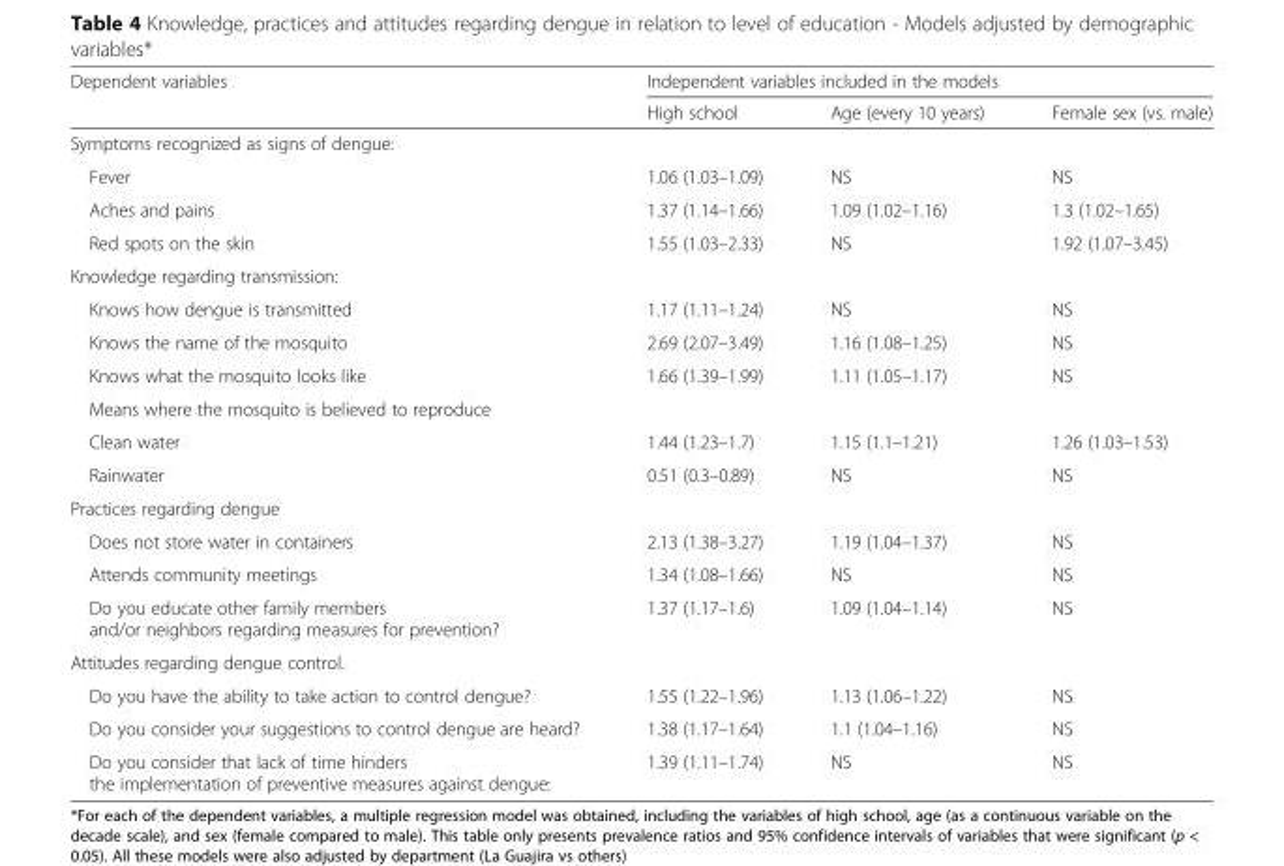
<table><thead><tr><td rowspan="2">Dependent variables</td><td colspan="3">Independent variables included in the models</td></tr><tr><td>High school</td><td>Age (every 10 years)</td><td>Female sex (vs. male)</td></tr></thead><tbody><tr><td colspan="4">Symptoms recognized as signs of dengue:</td></tr><tr><td>Fever</td><td>1.06 (1.03–1.09)</td><td>NS</td><td>NS</td></tr><tr><td>Aches and pains</td><td>1.37 (1.14–1.66)</td><td>1.09 (1.02–1.16)</td><td>1.3 (1.02–1.65)</td></tr><tr><td>Red spots on the skin</td><td>1.55 (1.03–2.33)</td><td>NS</td><td>1.92 (1.07–3.45)</td></tr><tr><td colspan="4">Knowledge regarding transmission:</td></tr><tr><td>Knows how dengue is transmitted</td><td>1.17 (1.11–1.24)</td><td>NS</td><td>NS</td></tr><tr><td>Knows the name of the mosquito</td><td>2.69 (2.07–3.49)</td><td>1.16 (1.08–1.25)</td><td>NS</td></tr><tr><td>Knows what the mosquito looks like</td><td>1.66 (1.39–1.99)</td><td>1.11 (1.05–1.17)</td><td>NS</td></tr><tr><td colspan="4">Means where the mosquito is believed to reproduce</td></tr><tr><td>Clean water</td><td>1.44 (1.23–1.7)</td><td>1.15 (1.1–1.21)</td><td>1.26 (1.03–1.53)</td></tr><tr><td>Rainwater</td><td>0.51 (0.3–0.89)</td><td>NS</td><td>NS</td></tr><tr><td colspan="4">Practices regarding dengue</td></tr><tr><td>Does not store water in containers</td><td>2.13 (1.38–3.27)</td><td>1.19 (1.04–1.37)</td><td>NS</td></tr><tr><td>Attends community meetings</td><td>1.34 (1.08–1.66)</td><td>NS</td><td>NS</td></tr><tr><td>Do you educate other family members and/or neighbors regarding measures for prevention?</td><td>1.37 (1.17–1.6)</td><td>1.09 (1.04–1.14)</td><td>NS</td></tr><tr><td colspan="4">Attitudes regarding dengue control.</td></tr><tr><td>Do you have the ability to take action to control dengue?</td><td>1.55 (1.22–1.96)</td><td>1.13 (1.06–1.22)</td><td>NS</td></tr><tr><td>Do you consider your suggestions to control dengue are heard?</td><td>1.38 (1.17–1.64)</td><td>1.1 (1.04–1.16)</td><td>NS</td></tr><tr><td>Do you consider that lack of time hinders the implementation of preventive measures against dengue:</td><td>1.39 (1.11–1.74)</td><td>NS</td><td>NS</td></tr></tbody></table>